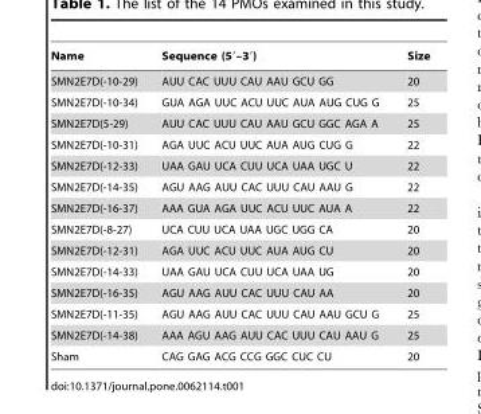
<table><thead><tr><td>Name</td><td>Sequence (5′–3′)</td><td>Size</td></tr></thead><tbody><tr><td>SMN2E7D(-10-29)</td><td>AUU CAC UUU CAU AAU GCU GG</td><td>20</td></tr><tr><td>SMN2E7D(-10-34)</td><td>GUA AGA UUC ACU UUC AUA AUG CUG G</td><td>25</td></tr><tr><td>SMN2E7D(5-29)</td><td>AUU CAC UUU CAU AAU GCU GGC AGA A</td><td>25</td></tr><tr><td>SMN2E7D(-10-31)</td><td>AGA UUC ACU UUC AUA AUG CUG G</td><td>22</td></tr><tr><td>SMN2E7D(-12-33)</td><td>UAA GAU UCA CUU UCA UAA UGC U</td><td>22</td></tr><tr><td>SMN2E7D(-14-35)</td><td>AGU AAG AUU CAC UUU CAU AAU G</td><td>22</td></tr><tr><td>SMN2E7D(-16-37)</td><td>AAA GUA AGA UUC ACU UUC AUA A</td><td>22</td></tr><tr><td>SMN2E7D(-8-27)</td><td>UCA CUU UCA UAA UGC UGG CA</td><td>20</td></tr><tr><td>SMN2E7D(-12-31)</td><td>AGA UUC ACU UUC AUA AUG CU</td><td>20</td></tr><tr><td>SMN2E7D(-14-33)</td><td>UAA GAU UCA CUU UCA UAA UG</td><td>20</td></tr><tr><td>SMN2E7D(-16-35)</td><td>AGU AAG AUU CAC UUU CAU AA</td><td>20</td></tr><tr><td>SMN2E7D(-11-35)</td><td>AGU AAG AUU CAC UUU CAU AAU GCU G</td><td>25</td></tr><tr><td>SMN2E7D(-14-38)</td><td>AAA AGU AAG AUU CAC UUU CAU AAU G</td><td>25</td></tr><tr><td>Sham</td><td>CAG GAG ACG CCG GGC CUC CU</td><td>20</td></tr></tbody></table>